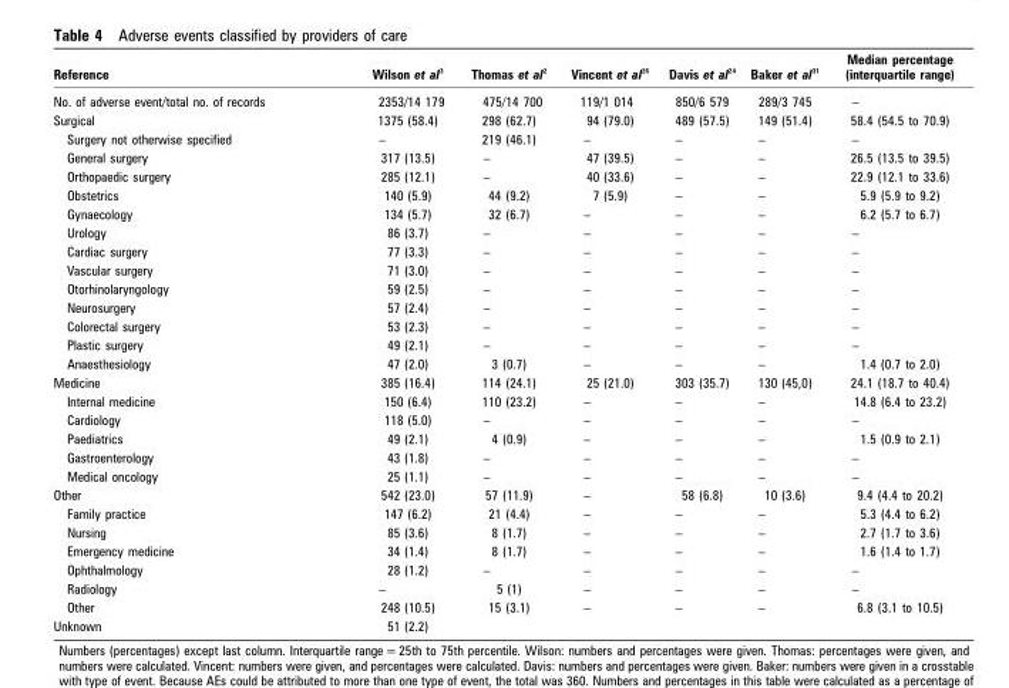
<table><thead><tr><td>Reference</td><td>Wilson et al <sup>3</sup></td><td>Thomas et al <sup>2</sup></td><td>Vincent et al <sup>26</sup></td><td>Davis et al <sup>24</sup></td><td>Baker et al <sup>31</sup></td><td>Median percentage (interquartile range)</td></tr></thead><tbody><tr><td>No. of adverse event/total no. of records</td><td>2353/14 179</td><td>475/14 700</td><td>119/1 014</td><td>850/6 579</td><td>289/3 745</td><td>–</td></tr><tr><td>Surgical</td><td>1375 (58.4)</td><td>298 (62.7)</td><td>94 (79.0)</td><td>489 (57.5)</td><td>149 (51.4)</td><td>58.4 (54.5 to 70.9)</td></tr><tr><td>Surgery not otherwise specified</td><td>–</td><td>219 (46.1)</td><td>–</td><td>–</td><td>–</td><td>–</td></tr><tr><td>General surgery</td><td>317 (13.5)</td><td>–</td><td>47 (39.5)</td><td>–</td><td>–</td><td>26.5 (13.5 to 39.5)</td></tr><tr><td>Orthopaedic surgery</td><td>285 (12.1)</td><td>–</td><td>40 (33.6)</td><td>–</td><td>–</td><td>22.9 (12.1 to 33.6)</td></tr><tr><td>Obstetrics</td><td>140 (5.9)</td><td>44 (9.2)</td><td>7 (5.9)</td><td>–</td><td>–</td><td>5.9 (5.9 to 9.2)</td></tr><tr><td>Gynaecology</td><td>134 (5.7)</td><td>32 (6.7)</td><td>–</td><td>–</td><td>–</td><td>6.2 (5.7 to 6.7)</td></tr><tr><td>Urology</td><td>86 (3.7)</td><td>–</td><td>–</td><td>–</td><td>–</td><td>–</td></tr><tr><td>Cardiac surgery</td><td>77 (3.3)</td><td>–</td><td>–</td><td>–</td><td>–</td><td>–</td></tr><tr><td>Vascular surgery</td><td>71 (3.0)</td><td>–</td><td>–</td><td>–</td><td>–</td><td>–</td></tr><tr><td>Otorhinolaryngology</td><td>59 (2.5)</td><td>–</td><td>–</td><td>–</td><td>–</td><td>–</td></tr><tr><td>Neurosurgery</td><td>57 (2.4)</td><td>–</td><td>–</td><td>–</td><td>–</td><td>–</td></tr><tr><td>Colorectal surgery</td><td>53 (2.3)</td><td>–</td><td>–</td><td>–</td><td>–</td><td>–</td></tr><tr><td>Plastic surgery</td><td>49 (2.1)</td><td>–</td><td>–</td><td>–</td><td>–</td><td>–</td></tr><tr><td>Anaesthesiology</td><td>47 (2.0)</td><td>3 (0.7)</td><td>–</td><td>–</td><td>–</td><td>1.4 (0.7 to 2.0)</td></tr><tr><td>Medicine</td><td>385 (16.4)</td><td>114 (24.1)</td><td>25 (21.0)</td><td>303 (35.7)</td><td>130 (45,0)</td><td>24.1 (18.7 to 40.4)</td></tr><tr><td>Internal medicine</td><td>150 (6.4)</td><td>110 (23.2)</td><td>–</td><td>–</td><td>–</td><td>14.8 (6.4 to 23.2)</td></tr><tr><td>Cardiology</td><td>118 (5.0)</td><td>–</td><td>–</td><td>–</td><td>–</td><td>–</td></tr><tr><td>Paediatrics</td><td>49 (2.1)</td><td>4 (0.9)</td><td>–</td><td>–</td><td>–</td><td>1.5 (0.9 to 2.1)</td></tr><tr><td>Gastroenterology</td><td>43 (1.8)</td><td>–</td><td>–</td><td>–</td><td>–</td><td>–</td></tr><tr><td>Medical oncology</td><td>25 (1.1)</td><td>–</td><td>–</td><td>–</td><td>–</td><td>–</td></tr><tr><td>Other</td><td>542 (23.0)</td><td>57 (11.9)</td><td>–</td><td>58 (6.8)</td><td>10 (3.6)</td><td>9.4 (4.4 to 20.2)</td></tr><tr><td>Family practice</td><td>147 (6.2)</td><td>21 (4.4)</td><td>–</td><td>–</td><td>–</td><td>5.3 (4.4 to 6.2)</td></tr><tr><td>Nursing</td><td>85 (3.6)</td><td>8 (1.7)</td><td>–</td><td>–</td><td>–</td><td>2.7 (1.7 to 3.6)</td></tr><tr><td>Emergency medicine</td><td>34 (1.4)</td><td>8 (1.7)</td><td>–</td><td>–</td><td>–</td><td>1.6 (1.4 to 1.7)</td></tr><tr><td>Ophthalmology</td><td>28 (1.2)</td><td>–</td><td>–</td><td>–</td><td>–</td><td>–</td></tr><tr><td>Radiology</td><td>–</td><td>5 (1)</td><td>–</td><td>–</td><td>–</td><td>–</td></tr><tr><td>Other</td><td>248 (10.5)</td><td>15 (3.1)</td><td>–</td><td>–</td><td>–</td><td>6.8 (3.1 to 10.5)</td></tr><tr><td>Unknown</td><td>51 (2.2)</td><td></td><td></td><td></td><td></td><td></td></tr></tbody></table>